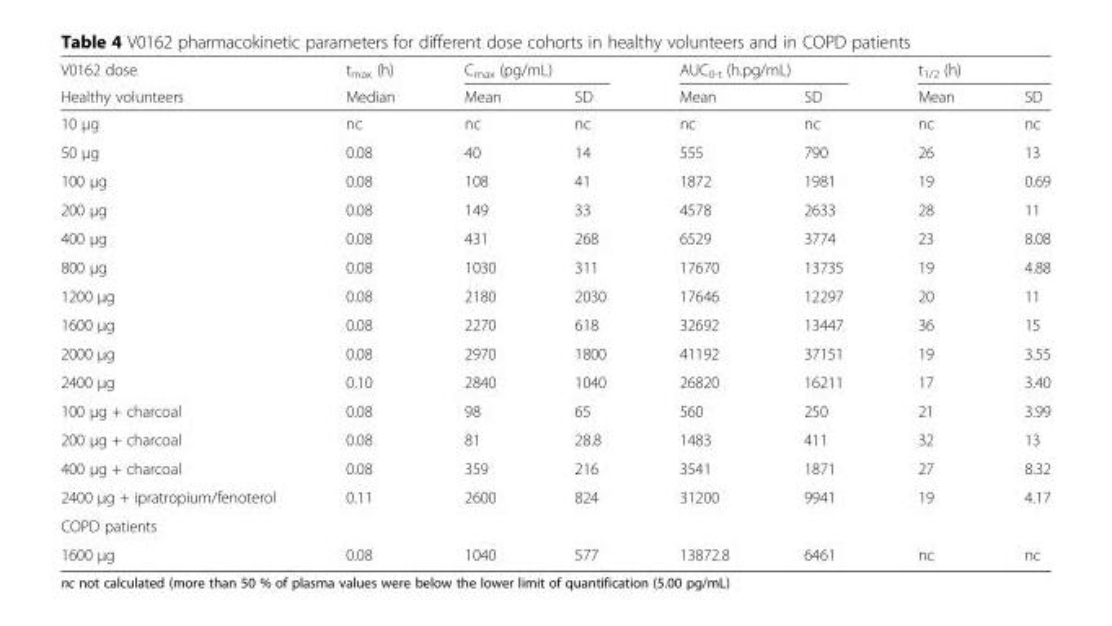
<table><thead><tr><td rowspan="2">V0162 dose Healthy volunteers</td><td rowspan="2">t<sub>max</sub> (h) Median</td><td colspan="2">C<sub>max</sub> (pg/mL)</td><td colspan="2">AUC<sub>0-t</sub> (h.pg/mL)</td><td colspan="2">t<sub>1/2</sub> (h)</td></tr><tr><td>Mean</td><td>SD</td><td>Mean</td><td>SD</td><td>Mean</td><td>SD</td></tr></thead><tbody><tr><td>10 μg</td><td>nc</td><td>nc</td><td>nc</td><td>nc</td><td>nc</td><td>nc</td><td>nc</td></tr><tr><td>50 μg</td><td>0.08</td><td>40</td><td>14</td><td>555</td><td>790</td><td>26</td><td>13</td></tr><tr><td>100 μg</td><td>0.08</td><td>108</td><td>41</td><td>1872</td><td>1981</td><td>19</td><td>0.69</td></tr><tr><td>200 μg</td><td>0.08</td><td>149</td><td>33</td><td>4578</td><td>2633</td><td>28</td><td>11</td></tr><tr><td>400 μg</td><td>0.08</td><td>431</td><td>268</td><td>6529</td><td>3774</td><td>23</td><td>8.08</td></tr><tr><td>800 μg</td><td>0.08</td><td>1030</td><td>311</td><td>17670</td><td>13735</td><td>19</td><td>4.88</td></tr><tr><td>1200 μg</td><td>0.08</td><td>2180</td><td>2030</td><td>17646</td><td>12297</td><td>20</td><td>11</td></tr><tr><td>1600 μg</td><td>0.08</td><td>2270</td><td>618</td><td>32692</td><td>13447</td><td>36</td><td>15</td></tr><tr><td>2000 μg</td><td>0.08</td><td>2970</td><td>1800</td><td>41192</td><td>37151</td><td>19</td><td>3.55</td></tr><tr><td>2400 μg</td><td>0.10</td><td>2840</td><td>1040</td><td>26820</td><td>16211</td><td>17</td><td>3.40</td></tr><tr><td>100 μg + charcoal</td><td>0.08</td><td>98</td><td>65</td><td>560</td><td>250</td><td>21</td><td>3.99</td></tr><tr><td>200 μg + charcoal</td><td>0.08</td><td>81</td><td>28.8</td><td>1483</td><td>411</td><td>32</td><td>13</td></tr><tr><td>400 μg + charcoal</td><td>0.08</td><td>359</td><td>216</td><td>3541</td><td>1871</td><td>27</td><td>8.32</td></tr><tr><td>2400 μg + ipratropium/fenoterol</td><td>0.11</td><td>2600</td><td>824</td><td>31200</td><td>9941</td><td>19</td><td>4.17</td></tr><tr><td colspan="8">COPD patients</td></tr><tr><td>1600 μg</td><td>0.08</td><td>1040</td><td>577</td><td>13872.8</td><td>6461</td><td>nc</td><td>nc</td></tr></tbody></table>